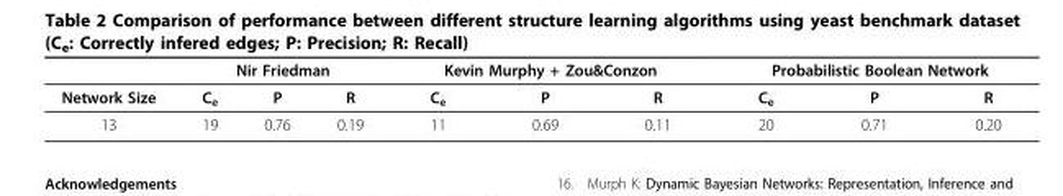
<table><thead><tr><td rowspan="2">Network Size</td><td colspan="3">Nir Friedman</td><td colspan="3">Kevin Murphy + Zou&amp;Conzon</td><td colspan="3">Probabilistic Boolean Network</td></tr><tr><td>C<sub>e</sub></td><td>P</td><td>R</td><td>C<sub>e</sub></td><td>P</td><td>R</td><td>C<sub>e</sub></td><td>P</td><td>R</td></tr></thead><tbody><tr><td>13</td><td>19</td><td>0.76</td><td>0.19</td><td>11</td><td>0.69</td><td>0.11</td><td>20</td><td>0.71</td><td>0.20</td></tr></tbody></table>